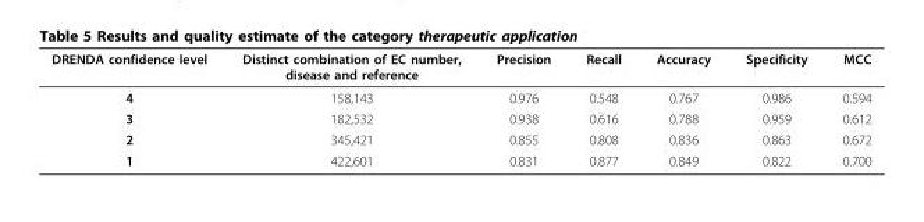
<table><thead><tr><td>DRENDA confidence level</td><td>Distinct combination of EC number, disease and reference</td><td>Precision</td><td>Recall</td><td>Accuracy</td><td>Specificity</td><td>MCC</td></tr></thead><tbody><tr><td>4</td><td>158,143</td><td>0.976</td><td>0.548</td><td>0.767</td><td>0.986</td><td>0.594</td></tr><tr><td>3</td><td>182,532</td><td>0.938</td><td>0.616</td><td>0.788</td><td>0.959</td><td>0.612</td></tr><tr><td>2</td><td>345,421</td><td>0.855</td><td>0.808</td><td>0.836</td><td>0.863</td><td>0.672</td></tr><tr><td>1</td><td>422,601</td><td>0.831</td><td>0.877</td><td>0.849</td><td>0.822</td><td>0.700</td></tr></tbody></table>